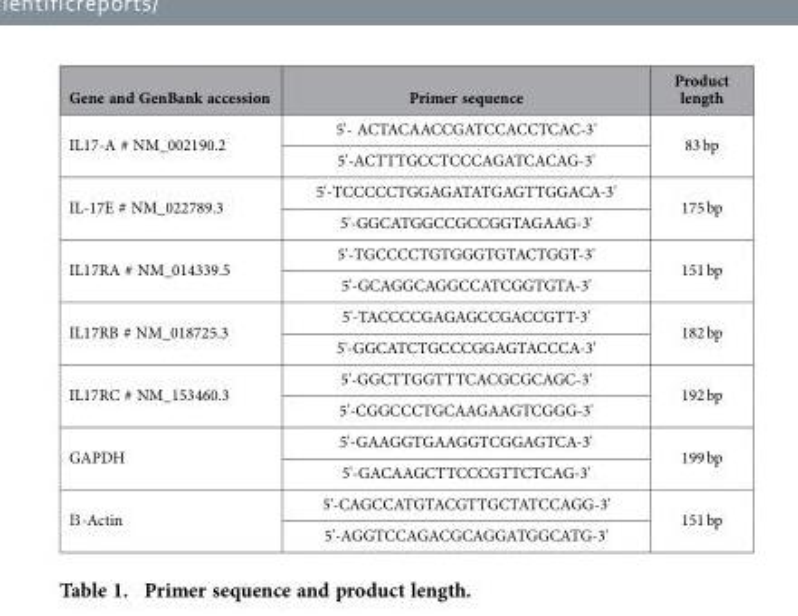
<table><thead><tr><td>Gene and GenBank accession</td><td>Primer sequence</td><td>Product length</td></tr></thead><tbody><tr><td rowspan="2">IL17-A # NM_002190.2</td><td>5&#x27;- ACTACAACCGATCCACCTCAC-3&#x27;</td><td rowspan="2">83 bp</td></tr><tr><td>5&#x27;-ACTTTGCCTCCCAGATCACAG-3&#x27;</td></tr><tr><td rowspan="2">IL-17E # NM_022789.3</td><td>5&#x27;-TCCCCCTGGAGATATGAGTTGGACA-3&#x27;</td><td rowspan="2">175 bp</td></tr><tr><td>5&#x27;-GGCATGGCCGCCGGTAGAAG-3&#x27;</td></tr><tr><td rowspan="2">IL17RA # NM_014339.5</td><td>5&#x27;-TGCCCCTGTGGGTGTACTGGT-3&#x27;</td><td rowspan="2">151 bp</td></tr><tr><td>5&#x27;-GCAGGCAGGCCATCGGTGTA-3&#x27;</td></tr><tr><td rowspan="2">IL17RB # NM_018725.3</td><td>5&#x27;-TACCCCGAGAGCCGACCGTT-3&#x27;</td><td rowspan="2">182 bp</td></tr><tr><td>5&#x27;-GGCATCTGCCCGGAGTACCCA-3&#x27;</td></tr><tr><td rowspan="2">IL17RC # NM_153460.3</td><td>5&#x27;-GGCTTGGTTTCACGCGCAGC-3&#x27;</td><td rowspan="2">192 bp</td></tr><tr><td>5&#x27;-CGGCCCTGCAAGAAGTCGGG-3&#x27;</td></tr><tr><td rowspan="2">GAPDH</td><td>5&#x27;-GAAGGTGAAGGTCGGAGTCA-3&#x27;</td><td rowspan="2">199 bp</td></tr><tr><td>5&#x27;-GACAAGCTTCCCGTTCTCAG-3&#x27;</td></tr><tr><td rowspan="2">Β -Actin</td><td>5&#x27;-CAGCCATGTACGTTGCTATCCAGG-3&#x27;</td><td rowspan="2">151 bp</td></tr><tr><td>5&#x27;-AGGTCCAGACGCAGGATGGCATG-3&#x27;</td></tr></tbody></table>